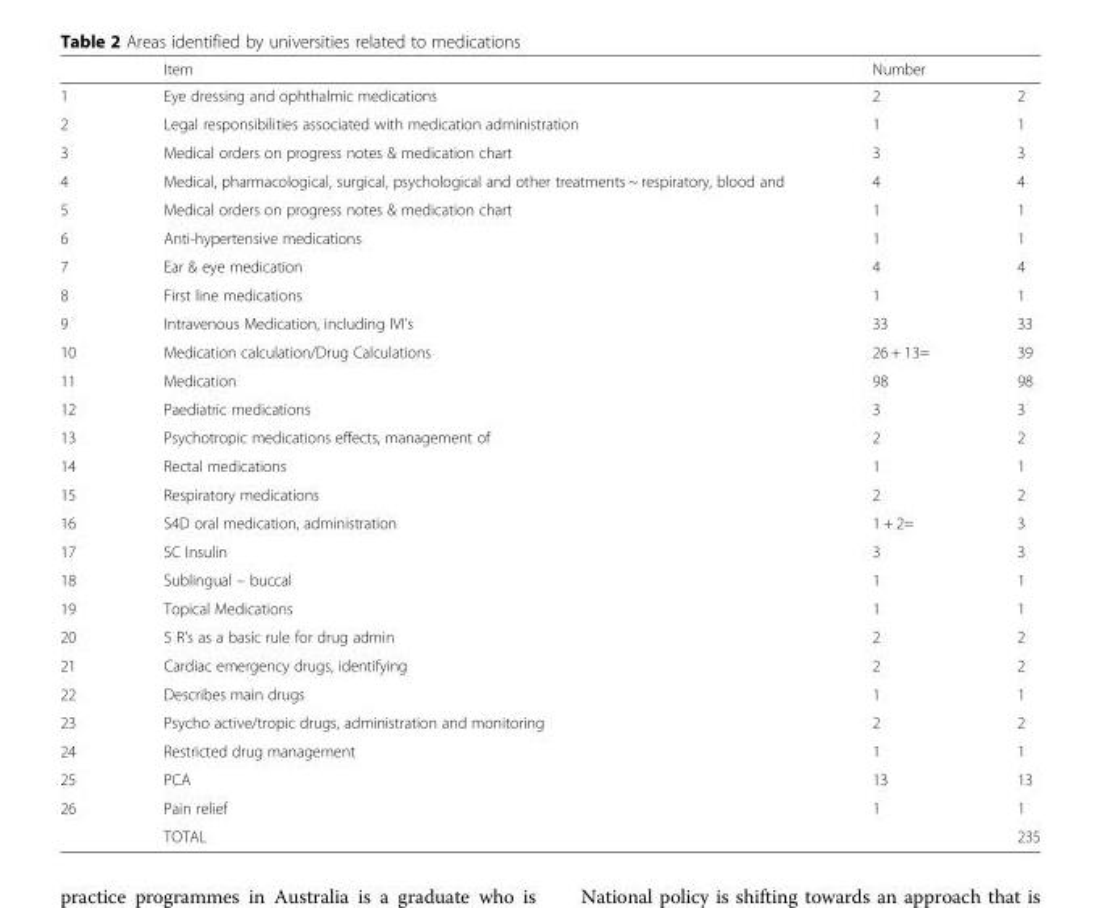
<table><thead><tr><td></td><td>Item</td><td>Number</td><td></td></tr></thead><tbody><tr><td>1</td><td>Eye dressing and ophthalmic medications</td><td>2</td><td>2</td></tr><tr><td>2</td><td>Legal responsibilities associated with medication administration</td><td>1</td><td>1</td></tr><tr><td>3</td><td>Medical orders on progress notes &amp; medication chart</td><td>3</td><td>3</td></tr><tr><td>4</td><td>Medical, pharmacological, surgical, psychological and other treatments ~ respiratory, blood and</td><td>4</td><td>4</td></tr><tr><td>5</td><td>Medical orders on progress notes &amp; medication chart</td><td>1</td><td>1</td></tr><tr><td>6</td><td>Anti-hypertensive medications</td><td>1</td><td>1</td></tr><tr><td>7</td><td>Ear &amp; eye medication</td><td>4</td><td>4</td></tr><tr><td>8</td><td>First line medications</td><td>1</td><td>1</td></tr><tr><td>9</td><td>Intravenous Medication, including IVI’s</td><td>33</td><td>33</td></tr><tr><td>10</td><td>Medication calculation/Drug Calculations</td><td>26 + 13=</td><td>39</td></tr><tr><td>11</td><td>Medication</td><td>98</td><td>98</td></tr><tr><td>12</td><td>Paediatric medications</td><td>3</td><td>3</td></tr><tr><td>13</td><td>Psychotropic medications effects, management of</td><td>2</td><td>2</td></tr><tr><td>14</td><td>Rectal medications</td><td>1</td><td>1</td></tr><tr><td>15</td><td>Respiratory medications</td><td>2</td><td>2</td></tr><tr><td>16</td><td>S4D oral medication, administration</td><td>1 + 2=</td><td>3</td></tr><tr><td>17</td><td>SC Insulin</td><td>3</td><td>3</td></tr><tr><td>18</td><td>Sublingual – buccal</td><td>1</td><td>1</td></tr><tr><td>19</td><td>Topical Medications</td><td>1</td><td>1</td></tr><tr><td>20</td><td>5 R’s as a basic rule for drug admin</td><td>2</td><td>2</td></tr><tr><td>21</td><td>Cardiac emergency drugs, identifying</td><td>2</td><td>2</td></tr><tr><td>22</td><td>Describes main drugs</td><td>1</td><td>1</td></tr><tr><td>23</td><td>Psycho active/tropic drugs, administration and monitoring</td><td>2</td><td>2</td></tr><tr><td>24</td><td>Restricted drug management</td><td>1</td><td>1</td></tr><tr><td>25</td><td>PCA</td><td>13</td><td>13</td></tr><tr><td rowspan="2">26</td><td>Pain relief</td><td>1</td><td>1</td></tr><tr><td>TOTAL</td><td></td><td>235</td></tr></tbody></table>